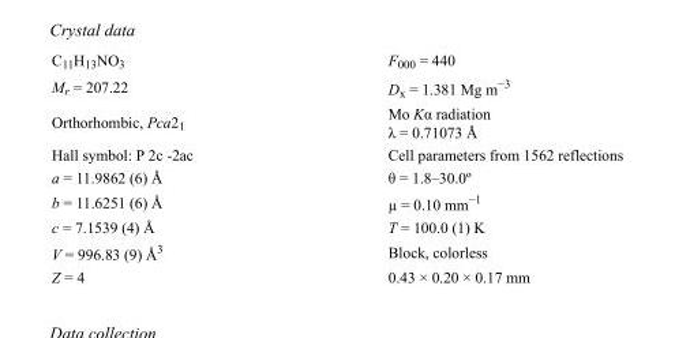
<table><tbody><tr><td>C<sub>11</sub>H<sub>13</sub>NO<sub>3</sub></td><td>F<sub>000</sub> = 440</td></tr><tr><td>M<sub>r</sub> = 207.22</td><td>D<sub>x</sub> = 1.381 Mg m<sup>−3</sup></td></tr><tr><td>Orthorhombic, Pca2<sub>1</sub></td><td>Mo Kα radiation λ = 0.71073 Å</td></tr><tr><td>Hall symbol: P 2c -2ac</td><td>Cell parameters from 1562 reflections</td></tr><tr><td>a = 11.9862 (6) Å</td><td>θ = 1.8–30.0º</td></tr><tr><td>b = 11.6251 (6) Å</td><td>µ = 0.10 mm<sup>−1</sup></td></tr><tr><td>c = 7.1539 (4) Å</td><td>T = 100.0 (1) K</td></tr><tr><td>V = 996.83 (9) Å<sup>3</sup></td><td>Block, colorless</td></tr><tr><td>Z = 4</td><td>0.43 × 0.20 × 0.17 mm</td></tr></tbody></table>